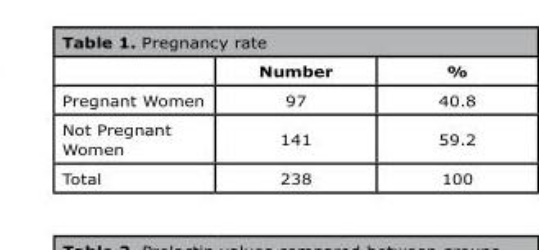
<table><thead><tr><td></td><td>Number</td><td>%</td></tr></thead><tbody><tr><td>Pregnant Women</td><td>97</td><td>40.8</td></tr><tr><td>Not Pregnant Women</td><td>141</td><td>59.2</td></tr><tr><td>Total</td><td>238</td><td>100</td></tr></tbody></table>